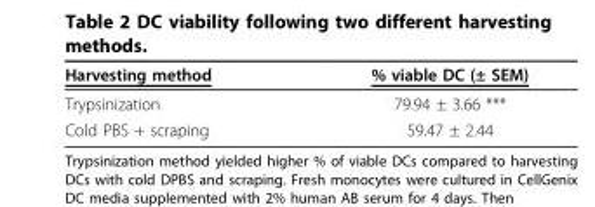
<table><thead><tr><td>Harvesting method</td><td>% viable DC (± SEM)</td></tr></thead><tbody><tr><td>Trypsinization</td><td>79.94 ± 3.66 ***</td></tr><tr><td>Cold PBS + scraping</td><td>59.47 ± 2.44</td></tr></tbody></table>